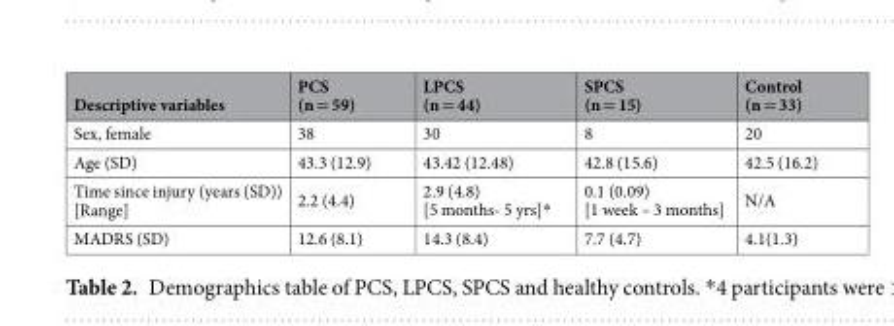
<table><thead><tr><td>Descriptive variables</td><td>PCS (n = 59)</td><td>LPCS (n = 44)</td><td>SPCS (n = 15)</td><td>Control (n = 33)</td></tr></thead><tbody><tr><td>Sex, female</td><td>38</td><td>30</td><td>8</td><td>20</td></tr><tr><td>Age (SD)</td><td>43.3 (12.9)</td><td>43.42 (12.48)</td><td>42.8 (15.6)</td><td>42.5 (16.2)</td></tr><tr><td>Time since injury (years (SD)) [Range]</td><td>2.2 (4.4)</td><td>2.9 (4.8) [5 months- 5 yrs]*</td><td>0.1 (0.09) [1 week – 3 months]</td><td>N/A</td></tr><tr><td>MADRS (SD)</td><td>12.6 (8.1)</td><td>14.3 (8.4)</td><td>7.7 (4.7)</td><td>4.1(1.3)</td></tr></tbody></table>